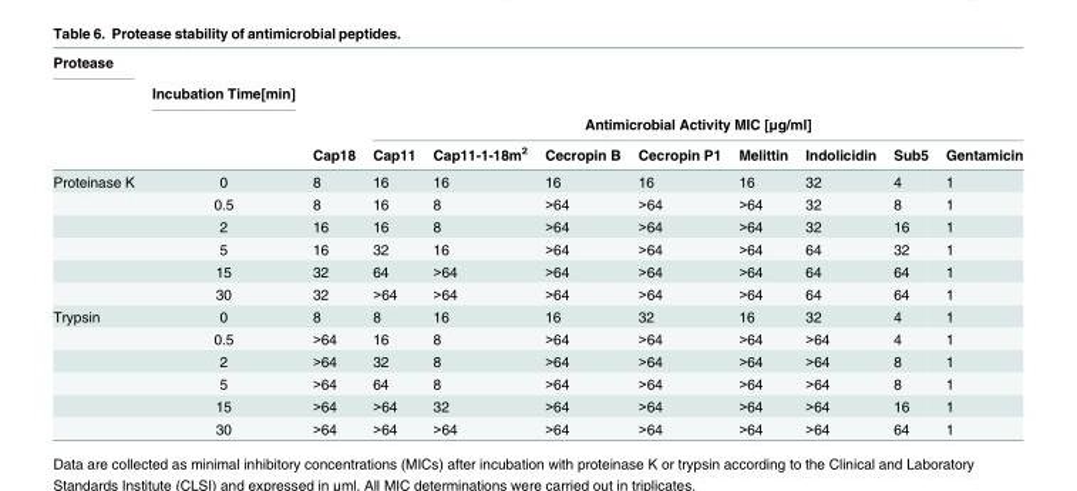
<table><thead><tr><td rowspan="4">Protease</td><td rowspan="4">Incubation Time[min]</td><td rowspan="4">Cap18</td><td rowspan="2"></td><td rowspan="2"></td><td rowspan="2"></td><td rowspan="2"></td><td rowspan="2"></td><td rowspan="2"></td><td rowspan="2"></td><td rowspan="2"></td></tr><tr></tr><tr><td colspan="8">Antimicrobial Activity MIC [μg/ml]</td></tr><tr><td>Cap11</td><td>Cap11-1-18m<sup>2</sup></td><td>Cecropin B</td><td>Cecropin P1</td><td>Melittin</td><td>Indolicidin</td><td>Sub5</td><td>Gentamicin</td></tr></thead><tbody><tr><td rowspan="6">Proteinase K</td><td>0</td><td>8</td><td>16</td><td>16</td><td>16</td><td>16</td><td>16</td><td>32</td><td>4</td><td>1</td></tr><tr><td>0.5</td><td>8</td><td>16</td><td>8</td><td>&gt;64</td><td>&gt;64</td><td>&gt;64</td><td>32</td><td>8</td><td>1</td></tr><tr><td>2</td><td>16</td><td>16</td><td>8</td><td>&gt;64</td><td>&gt;64</td><td>&gt;64</td><td>32</td><td>16</td><td>1</td></tr><tr><td>5</td><td>16</td><td>32</td><td>16</td><td>&gt;64</td><td>&gt;64</td><td>&gt;64</td><td>64</td><td>32</td><td>1</td></tr><tr><td>15</td><td>32</td><td>64</td><td>&gt;64</td><td>&gt;64</td><td>&gt;64</td><td>&gt;64</td><td>64</td><td>64</td><td>1</td></tr><tr><td>30</td><td>32</td><td>&gt;64</td><td>&gt;64</td><td>&gt;64</td><td>&gt;64</td><td>&gt;64</td><td>64</td><td>64</td><td>1</td></tr><tr><td rowspan="6">Trypsin</td><td>0</td><td>8</td><td>8</td><td>16</td><td>16</td><td>32</td><td>16</td><td>32</td><td>4</td><td>1</td></tr><tr><td>0.5</td><td>&gt;64</td><td>16</td><td>8</td><td>&gt;64</td><td>&gt;64</td><td>&gt;64</td><td>&gt;64</td><td>4</td><td>1</td></tr><tr><td>2</td><td>&gt;64</td><td>32</td><td>8</td><td>&gt;64</td><td>&gt;64</td><td>&gt;64</td><td>&gt;64</td><td>8</td><td>1</td></tr><tr><td>5</td><td>&gt;64</td><td>64</td><td>8</td><td>&gt;64</td><td>&gt;64</td><td>&gt;64</td><td>&gt;64</td><td>8</td><td>1</td></tr><tr><td>15</td><td>&gt;64</td><td>&gt;64</td><td>32</td><td>&gt;64</td><td>&gt;64</td><td>&gt;64</td><td>&gt;64</td><td>16</td><td>1</td></tr><tr><td>30</td><td>&gt;64</td><td>&gt;64</td><td>&gt;64</td><td>&gt;64</td><td>&gt;64</td><td>&gt;64</td><td>&gt;64</td><td>64</td><td>1</td></tr></tbody></table>